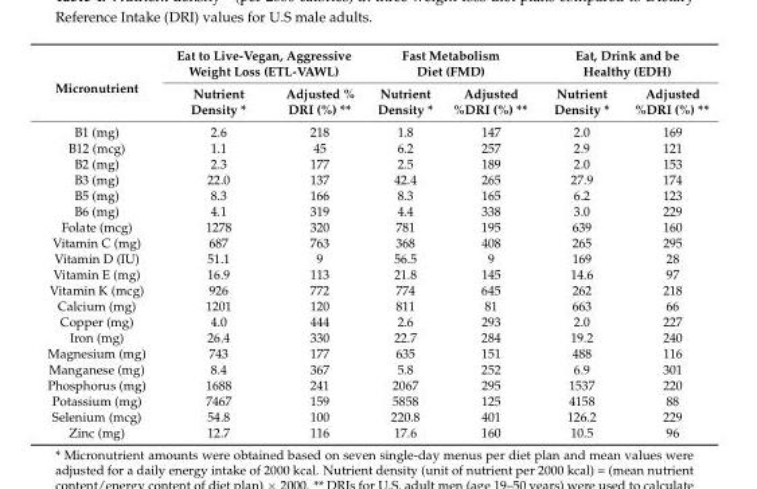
<table><thead><tr><td rowspan="2">Micronutrient</td><td colspan="2">Eat to Live-Vegan, Aggressive Weight Loss (ETL-VAWL)</td><td colspan="2">Fast Metabolism Diet (FMD)</td><td colspan="2">Eat, Drink and be Healthy (EDH)</td></tr><tr><td>Nutrient Density *</td><td>Adjusted % DRI (%) **</td><td>Nutrient Density *</td><td>Adjusted %DRI (%) **</td><td>Nutrient Density *</td><td>Adjusted %DRI (%) **</td></tr></thead><tbody><tr><td>B1 (mg)</td><td>2.6</td><td>218</td><td>1.8</td><td>147</td><td>2.0</td><td>169</td></tr><tr><td>B12 (mcg)</td><td>1.1</td><td>45</td><td>6.2</td><td>257</td><td>2.9</td><td>121</td></tr><tr><td>B2 (mg)</td><td>2.3</td><td>177</td><td>2.5</td><td>189</td><td>2.0</td><td>153</td></tr><tr><td>B3 (mg)</td><td>22.0</td><td>137</td><td>42.4</td><td>265</td><td>27.9</td><td>174</td></tr><tr><td>B5 (mg)</td><td>8.3</td><td>166</td><td>8.3</td><td>165</td><td>6.2</td><td>123</td></tr><tr><td>B6 (mg)</td><td>4.1</td><td>319</td><td>4.4</td><td>338</td><td>3.0</td><td>229</td></tr><tr><td>Folate (mcg)</td><td>1278</td><td>320</td><td>781</td><td>195</td><td>639</td><td>160</td></tr><tr><td>Vitamin C (mg)</td><td>687</td><td>763</td><td>368</td><td>408</td><td>265</td><td>295</td></tr><tr><td>Vitamin D (IU)</td><td>51.1</td><td>9</td><td>56.5</td><td>9</td><td>169</td><td>28</td></tr><tr><td>Vitamin E (mg)</td><td>16.9</td><td>113</td><td>21.8</td><td>145</td><td>14.6</td><td>97</td></tr><tr><td>Vitamin K (mcg)</td><td>926</td><td>772</td><td>774</td><td>645</td><td>262</td><td>218</td></tr><tr><td>Calcium (mg)</td><td>1201</td><td>120</td><td>811</td><td>81</td><td>663</td><td>66</td></tr><tr><td>Copper (mg)</td><td>4.0</td><td>444</td><td>2.6</td><td>293</td><td>2.0</td><td>227</td></tr><tr><td>Iron (mg)</td><td>26.4</td><td>330</td><td>22.7</td><td>284</td><td>19.2</td><td>240</td></tr><tr><td>Magnesium (mg)</td><td>743</td><td>177</td><td>635</td><td>151</td><td>488</td><td>116</td></tr><tr><td>Manganese (mg)</td><td>8.4</td><td>367</td><td>5.8</td><td>252</td><td>6.9</td><td>301</td></tr><tr><td>Phosphorus (mg)</td><td>1688</td><td>241</td><td>2067</td><td>295</td><td>1537</td><td>220</td></tr><tr><td>Potassium (mg)</td><td>7467</td><td>159</td><td>5858</td><td>125</td><td>4158</td><td>88</td></tr><tr><td>Selenium (mcg)</td><td>54.8</td><td>100</td><td>220.8</td><td>401</td><td>126.2</td><td>229</td></tr><tr><td>Zinc (mg)</td><td>12.7</td><td>116</td><td>17.6</td><td>160</td><td>10.5</td><td>96</td></tr></tbody></table>